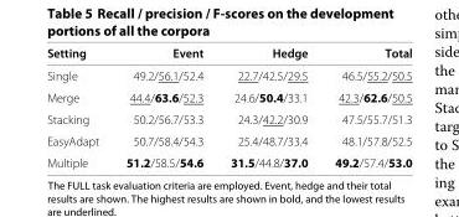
<table><thead><tr><td>Setting</td><td>Event</td><td>Hedge</td><td>Total</td></tr></thead><tbody><tr><td>Single</td><td>49.2/56.1/52.4</td><td>22.7/42.5/29.5</td><td>46.5/55.2/50.5</td></tr><tr><td>Merge</td><td>44.4/63.6/52.3</td><td>24.6/50.4/33.1</td><td>42.3/62.6/50.5</td></tr><tr><td>Stacking</td><td>50.2/56.7/53.3</td><td>24.3/42.2/30.9</td><td>47.5/55.7/51.3</td></tr><tr><td>EasyAdapt</td><td>50.7/58.4/54.3</td><td>25.4/48.7/33.4</td><td>48.1/57.8/52.5</td></tr><tr><td>Multiple</td><td>51.2/58.5/54.6</td><td>31.5/44.8/37.0</td><td>49.2/57.4/53.0</td></tr></tbody></table>